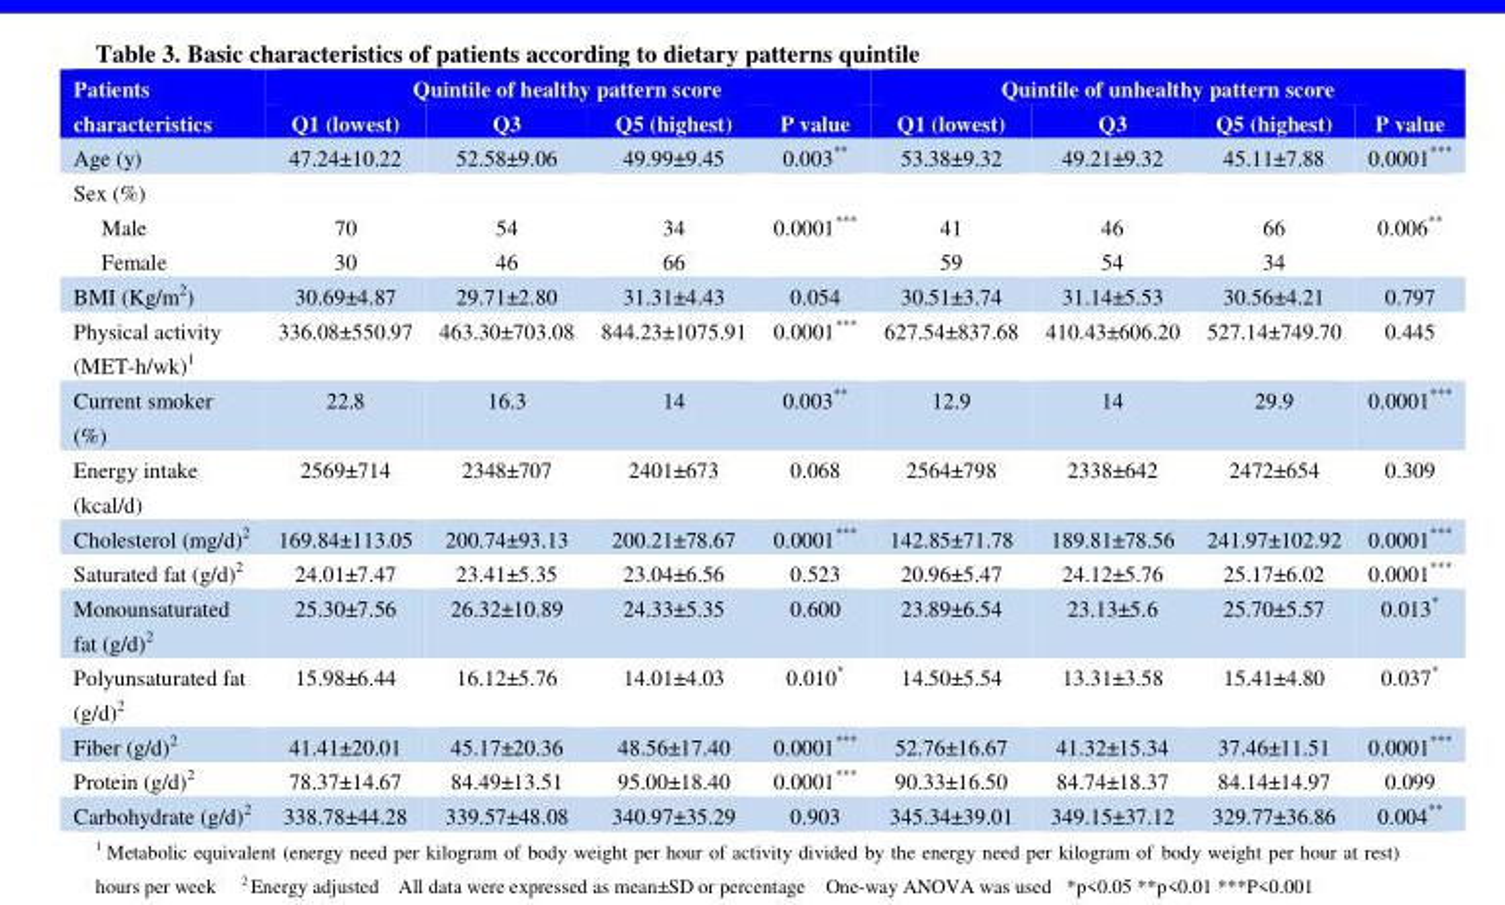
<table><thead><tr><td rowspan="2">Patients characteristics</td><td colspan="4">Quintile of healthy pattern score</td><td colspan="4">Quintile of unhealthy pattern score</td></tr><tr><td>Q1 (lowest)</td><td>Q3</td><td>Q5 (highest)</td><td>P value</td><td>Q1 (lowest)</td><td>Q3</td><td>Q5 (highest)</td><td>P value</td></tr></thead><tbody><tr><td>Age (y)</td><td>47.24±10.22</td><td>52.58±9.06</td><td>49.99±9.45</td><td>0.003**</td><td>53.38±9.32</td><td>49.21±9.32</td><td>45.11±7.88</td><td>0.0001***</td></tr><tr><td>Sex (%)</td><td></td><td></td><td></td><td></td><td></td><td></td><td></td><td></td></tr><tr><td>Male Female</td><td>70 30</td><td>54 46</td><td>34 66</td><td>0.0001***</td><td>41 59</td><td>46 54</td><td>66 34</td><td>0.006**</td></tr><tr><td>BMI (Kg/m<sup>2</sup>)</td><td>30.69±4.87</td><td>29.71±2.80</td><td>31.31±4.43</td><td>0.054</td><td>30.51±3.74</td><td>31.14±5.53</td><td>30.56±4.21</td><td>0.797</td></tr><tr><td>Physical activity (MET-h/wk)<sup>1</sup></td><td>336.08±550.97</td><td>463.30±703.08</td><td>844.23±1075.91</td><td>0.0001***</td><td>627.54±837.68</td><td>410.43±606.20</td><td>527.14±749.70</td><td>0.445</td></tr><tr><td>Current smoker (%)</td><td>22.8</td><td>16.3</td><td>14</td><td>0.003**</td><td>12.9</td><td>14</td><td>29.9</td><td>0.0001***</td></tr><tr><td>Energy intake (kcal/d)</td><td>2569±714</td><td>2348±707</td><td>2401±673</td><td>0.068</td><td>2564±798</td><td>2338±642</td><td>2472±654</td><td>0.309</td></tr><tr><td>Cholesterol (mg/d)<sup>2</sup></td><td>169.84±113.05</td><td>200.74±93.13</td><td>200.21±78.67</td><td>0.0001***</td><td>142.85±71.78</td><td>189.81±78.56</td><td>241.97±102.92</td><td>0.0001***</td></tr><tr><td>Saturated fat (g/d)<sup>2</sup></td><td>24.01±7.47</td><td>23.41±5.35</td><td>23.04±6.56</td><td>0.523</td><td>20.96±5.47</td><td>24.12±5.76</td><td>25.17±6.02</td><td>0.0001***</td></tr><tr><td>Monounsaturated fat (g/d)<sup>2</sup></td><td>25.30±7.56</td><td>26.32±10.89</td><td>24.33±5.35</td><td>0.600</td><td>23.89±6.54</td><td>23.13±5.6</td><td>25.70±5.57</td><td>0.013*</td></tr><tr><td>Polyunsaturated fat (g/d)<sup>2</sup></td><td>15.98±6.44</td><td>16.12±5.76</td><td>14.01±4.03</td><td>0.010*</td><td>14.50±5.54</td><td>13.31±3.58</td><td>15.41±4.80</td><td>0.037*</td></tr><tr><td>Fiber (g/d)<sup>2</sup></td><td>41.41±20.01</td><td>45.17±20.36</td><td>48.56±17.40</td><td>0.0001***</td><td>52.76±16.67</td><td>41.32±15.34</td><td>37.46±11.51</td><td>0.0001***</td></tr><tr><td>Protein (g/d)<sup>2</sup></td><td>78.37±14.67</td><td>84.49±13.51</td><td>95.00±18.40</td><td>0.0001***</td><td>90.33±16.50</td><td>84.74±18.37</td><td>84.14±14.97</td><td>0.099</td></tr><tr><td>Carbohydrate (g/d)<sup>2</sup></td><td>338.78±44.28</td><td>339.57±48.08</td><td>340.97±35.29</td><td>0.903</td><td>345.34±39.01</td><td>349.15±37.12</td><td>329.77±36.86</td><td>0.004**</td></tr></tbody></table>